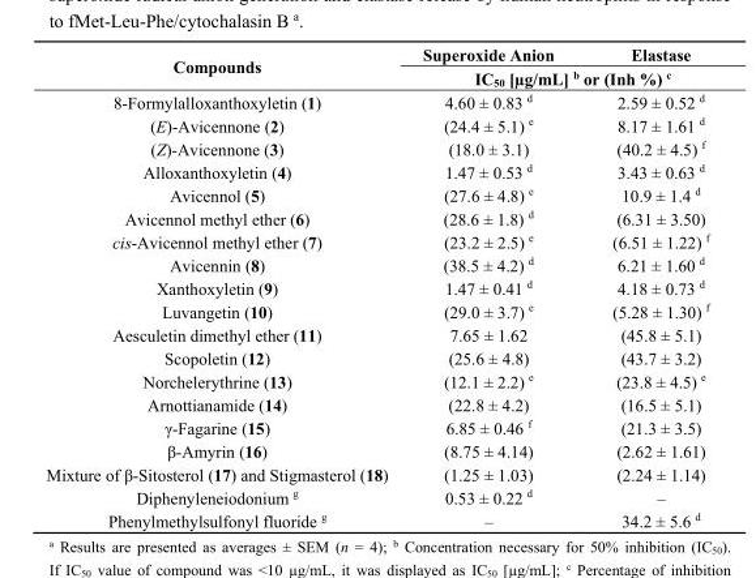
<table><thead><tr><td rowspan="2">Compounds</td><td>Superoxide Anion</td><td>Elastase</td></tr><tr><td colspan="2">IC<sub>50</sub> [µg/mL] <sup>b</sup> or (Inh %) <sup>c</sup></td></tr></thead><tbody><tr><td>8-Formylalloxanthoxyletin (1)</td><td>4.60 ± 0.83 <sup>d</sup></td><td>2.59 ± 0.52 <sup>d</sup></td></tr><tr><td>(E)-Avicennone (2)</td><td>(24.4 ± 5.1) <sup>e</sup></td><td>8.17 ± 1.61 <sup>d</sup></td></tr><tr><td>(Z)-Avicennone (3)</td><td>(18.0 ± 3.1)</td><td>(40.2 ± 4.5) <sup>f</sup></td></tr><tr><td>Alloxanthoxyletin (4)</td><td>1.47 ± 0.53 <sup>d</sup></td><td>3.43 ± 0.63 <sup>d</sup></td></tr><tr><td>Avicennol (5)</td><td>(27.6 ± 4.8) <sup>e</sup></td><td>10.9 ± 1.4 <sup>d</sup></td></tr><tr><td>Avicennol methyl ether (6)</td><td>(28.6 ± 1.8) <sup>d</sup></td><td>(6.31 ± 3.50)</td></tr><tr><td>cis-Avicennol methyl ether (7)</td><td>(23.2 ± 2.5) <sup>e</sup></td><td>(6.51 ± 1.22) <sup>f</sup></td></tr><tr><td>Avicennin (8)</td><td>(38.5 ± 4.2) <sup>d</sup></td><td>6.21 ± 1.60 <sup>d</sup></td></tr><tr><td>Xanthoxyletin (9)</td><td>1.47 ± 0.41 <sup>d</sup></td><td>4.18 ± 0.73 <sup>d</sup></td></tr><tr><td>Luvangetin (10)</td><td>(29.0 ± 3.7) <sup>e</sup></td><td>(5.28 ± 1.30) <sup>f</sup></td></tr><tr><td>Aesculetin dimethyl ether (11)</td><td>7.65 ± 1.62</td><td>(45.8 ± 5.1)</td></tr><tr><td>Scopoletin (12)</td><td>(25.6 ± 4.8)</td><td>(43.7 ± 3.2)</td></tr><tr><td>Norchelerythrine (13)</td><td>(12.1 ± 2.2) <sup>e</sup></td><td>(23.8 ± 4.5) <sup>e</sup></td></tr><tr><td>Arnottianamide (14)</td><td>(22.8 ± 4.2)</td><td>(16.5 ± 5.1)</td></tr><tr><td>γ-Fagarine (15)</td><td>6.85 ± 0.46 <sup>f</sup></td><td>(21.3 ± 3.5)</td></tr><tr><td>β-Amyrin (16)</td><td>(8.75 ± 4.14)</td><td>(2.62 ± 1.61)</td></tr><tr><td>Mixture of β-Sitosterol (17) and Stigmasterol (18)</td><td>(1.25 ± 1.03)</td><td>(2.24 ± 1.14)</td></tr><tr><td>Diphenyleneiodonium <sup>g</sup></td><td>0.53 ± 0.22 <sup>d</sup></td><td>–</td></tr><tr><td>Phenylmethylsulfonyl fluoride <sup>g</sup></td><td>–</td><td>34.2 ± 5.6 <sup>d</sup></td></tr></tbody></table>